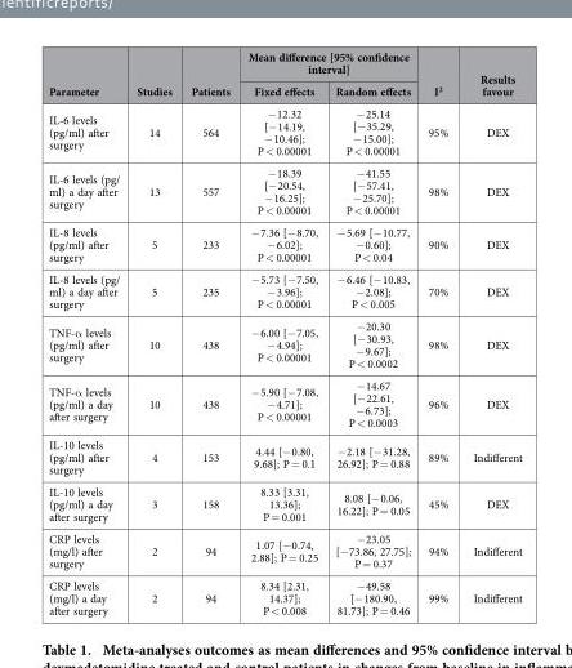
<table><thead><tr><td rowspan="2">Parameter</td><td rowspan="2">Studies</td><td rowspan="2">Patients</td><td colspan="2">Mean difference [95% confidence interval]</td><td rowspan="2">I<sup>2</sup></td><td rowspan="2">Results favour</td></tr><tr><td>Fixed effects</td><td>Random effects</td></tr></thead><tbody><tr><td>IL-6 levels (pg/ml) after surgery</td><td>14</td><td>564</td><td>− 12.32 [− 14.19, − 10.46]; P &lt; 0.00001</td><td>− 25.14 [− 35.29, − 15.00]; P &lt; 0.00001</td><td>95%</td><td>DEX</td></tr><tr><td>IL-6 levels (pg/ ml) a day after surgery</td><td>13</td><td>557</td><td>− 18.39 [− 20.54, − 16.25]; P &lt; 0.00001</td><td>− 41.55 [− 57.41, − 25.70]; P &lt; 0.00001</td><td>98%</td><td>DEX</td></tr><tr><td>IL-8 levels (pg/ml) after surgery</td><td>5</td><td>233</td><td>− 7.36 [− 8.70, − 6.02]; P &lt; 0.00001</td><td>− 5.69 [− 10.77, − 0.60]; P &lt; 0.04</td><td>90%</td><td>DEX</td></tr><tr><td>IL-8 levels (pg/ ml) a day after surgery</td><td>5</td><td>235</td><td>− 5.73 [− 7.50, − 3.96]; P &lt; 0.00001</td><td>− 6.46 [− 10.83, − 2.08]; P &lt; 0.005</td><td>70%</td><td>DEX</td></tr><tr><td>TNF-α levels (pg/ml) after surgery</td><td>10</td><td>438</td><td>− 6.00 [− 7.05, − 4.94]; P &lt; 0.00001</td><td>− 20.30 [− 30.93, − 9.67]; P &lt; 0.0002</td><td>98%</td><td>DEX</td></tr><tr><td>TNF-α levels (pg/ml) a day after surgery</td><td>10</td><td>438</td><td>− 5.90 [− 7.08, − 4.71]; P &lt; 0.00001</td><td>− 14.67 [− 22.61, − 6.73]; P &lt; 0.0003</td><td>96%</td><td>DEX</td></tr><tr><td>IL-10 levels (pg/ml) after surgery</td><td>4</td><td>153</td><td>4.44 [− 0.80, 9.68]; P = 0.1</td><td>− 2.18 [− 31.28, 26.92]; P = 0.88</td><td>89%</td><td>Indifferent</td></tr><tr><td>IL-10 levels (pg/ml) a day after surgery</td><td>3</td><td>158</td><td>8.33 [3.31, 13.36]; P = 0.001</td><td>8.08 [− 0.06, 16.22]; P = 0.05</td><td>45%</td><td>DEX</td></tr><tr><td>CRP levels (mg/l) after surgery</td><td>2</td><td>94</td><td>1.07 [− 0.74, 2.88]; P = 0.25</td><td>− 23.05 [− 73.86, 27.75]; P = 0.37</td><td>94%</td><td>Indifferent</td></tr><tr><td>CRP levels (mg/l) a day after surgery</td><td>2</td><td>94</td><td>8.34 [2.31, 14.37]; P &lt; 0.008</td><td>− 49.58 [− 180.90, 81.73]; P = 0.46</td><td>99%</td><td>Indifferent</td></tr></tbody></table>